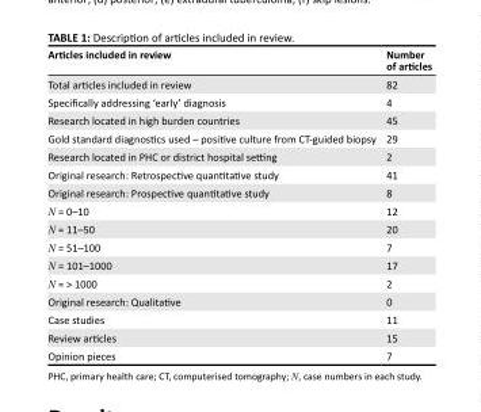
<table><thead><tr><td>Articles included in review</td><td>Number of articles</td></tr></thead><tbody><tr><td>Total articles included in review</td><td>82</td></tr><tr><td>Specifically addressing ‘early’ diagnosis</td><td>4</td></tr><tr><td>Research located in high burden countries</td><td>45</td></tr><tr><td>Gold standard diagnostics used – positive culture from CT-guided biopsy</td><td>29</td></tr><tr><td>Research located in PHC or district hospital setting</td><td>2</td></tr><tr><td>Original research: Retrospective quantitative study</td><td>41</td></tr><tr><td>Original research: Prospective quantitative study</td><td>8</td></tr><tr><td>N = 0–10</td><td>12</td></tr><tr><td>N = 11–50</td><td>20</td></tr><tr><td>N = 51–100</td><td>7</td></tr><tr><td>N = 101–1000</td><td>17</td></tr><tr><td>N = &gt; 1000</td><td>2</td></tr><tr><td>Original research: Qualitative</td><td>0</td></tr><tr><td>Case studies</td><td>11</td></tr><tr><td>Review articles</td><td>15</td></tr><tr><td>Opinion pieces</td><td>7</td></tr></tbody></table>